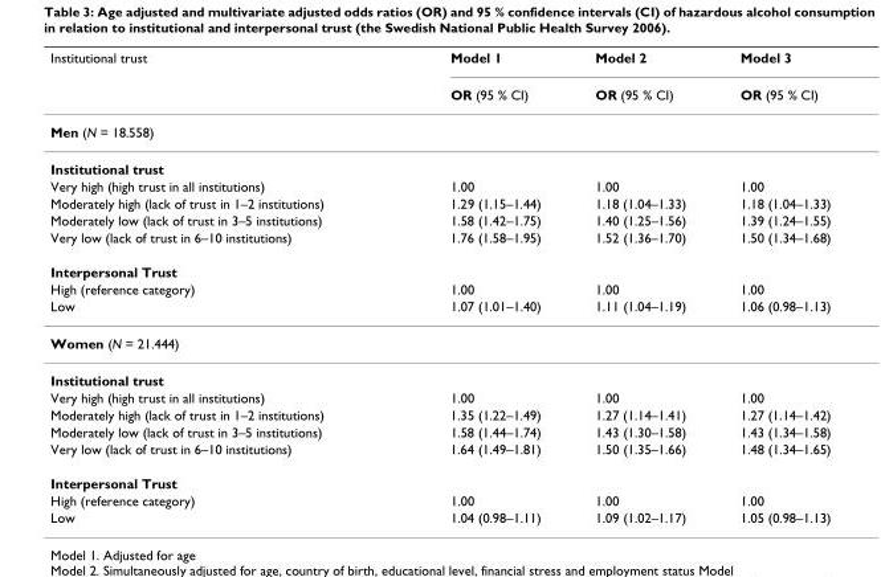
<table><thead><tr><td rowspan="2">Institutional trust</td><td rowspan="2">Model 1 OR (95 % CI)</td><td rowspan="2">Model 2 OR (95 % CI)</td><td rowspan="2">Model 3 OR (95 % CI)</td></tr><tr></tr></thead><tbody><tr><td colspan="4">Men (N = 18.558)</td></tr><tr><td colspan="4">Institutional trust</td></tr><tr><td>Very high (high trust in all institutions)</td><td>1.00</td><td>1.00</td><td>1.00</td></tr><tr><td>Moderately high (lack of trust in 1–2 institutions)</td><td>1.29 (1.15–1.44)</td><td>1.18 (1.04–1.33)</td><td>1.18 (1.04–1.33)</td></tr><tr><td>Moderately low (lack of trust in 3–5 institutions)</td><td>1.58 (1.42–1.75)</td><td>1.40 (1.25–1.56)</td><td>1.39 (1.24–1.55)</td></tr><tr><td>Very low (lack of trust in 6–10 institutions)</td><td>1.76 (1.58–1.95)</td><td>1.52 (1.36–1.70)</td><td>1.50 (1.34–1.68)</td></tr><tr><td colspan="4">Interpersonal Trust</td></tr><tr><td>High (reference category)</td><td>1.00</td><td>1.00</td><td>1.00</td></tr><tr><td>Low</td><td>1.07 (1.01–1.40)</td><td>1.11 (1.04–1.19)</td><td>1.06 (0.98–1.13)</td></tr><tr><td colspan="4">Women (N = 21.444)</td></tr><tr><td colspan="4">Institutional trust</td></tr><tr><td>Very high (high trust in all institutions)</td><td>1.00</td><td>1.00</td><td>1.00</td></tr><tr><td>Moderately high (lack of trust in 1–2 institutions)</td><td>1.35 (1.22–1.49)</td><td>1.27 (1.14–1.41)</td><td>1.27 (1.14–1.42)</td></tr><tr><td>Moderately low (lack of trust in 3–5 institutions)</td><td>1.58 (1.44–1.74)</td><td>1.43 (1.30–1.58)</td><td>1.43 (1.34–1.58)</td></tr><tr><td>Very low (lack of trust in 6–10 institutions)</td><td>1.64 (1.49–1.81)</td><td>1.50 (1.35–1.66)</td><td>1.48 (1.34–1.65)</td></tr><tr><td colspan="4">Interpersonal Trust</td></tr><tr><td>High (reference category)</td><td>1.00</td><td>1.00</td><td>1.00</td></tr><tr><td>Low</td><td>1.04 (0.98–1.11)</td><td>1.09 (1.02–1.17)</td><td>1.05 (0.98–1.13)</td></tr></tbody></table>